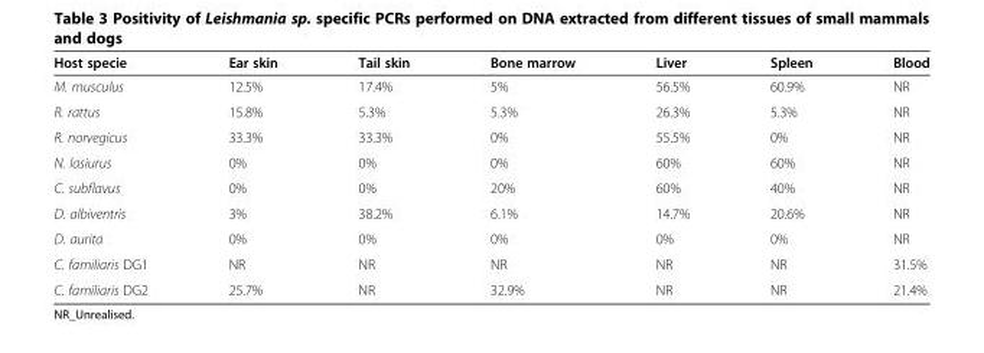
<table><thead><tr><td>Host specie</td><td>Ear skin</td><td>Tail skin</td><td>Bone marrow</td><td>Liver</td><td>Spleen</td><td>Blood</td></tr></thead><tbody><tr><td>M. musculus</td><td>12.5%</td><td>17.4%</td><td>5%</td><td>56.5%</td><td>60.9%</td><td>NR</td></tr><tr><td>R. rattus</td><td>15.8%</td><td>5.3%</td><td>5.3%</td><td>26.3%</td><td>5.3%</td><td>NR</td></tr><tr><td>R. norvegicus</td><td>33.3%</td><td>33.3%</td><td>0%</td><td>55.5%</td><td>0%</td><td>NR</td></tr><tr><td>N. lasiurus</td><td>0%</td><td>0%</td><td>0%</td><td>60%</td><td>60%</td><td>NR</td></tr><tr><td>C. subflavus</td><td>0%</td><td>0%</td><td>20%</td><td>60%</td><td>40%</td><td>NR</td></tr><tr><td>D. albiventris</td><td>3%</td><td>38.2%</td><td>6.1%</td><td>14.7%</td><td>20.6%</td><td>NR</td></tr><tr><td>D. aurita</td><td>0%</td><td>0%</td><td>0%</td><td>0%</td><td>0%</td><td>NR</td></tr><tr><td>C. familiaris DG1</td><td>NR</td><td>NR</td><td>NR</td><td>NR</td><td>NR</td><td>31.5%</td></tr><tr><td>C. familiaris DG2</td><td>25.7%</td><td>NR</td><td>32.9%</td><td>NR</td><td>NR</td><td>21.4%</td></tr></tbody></table>